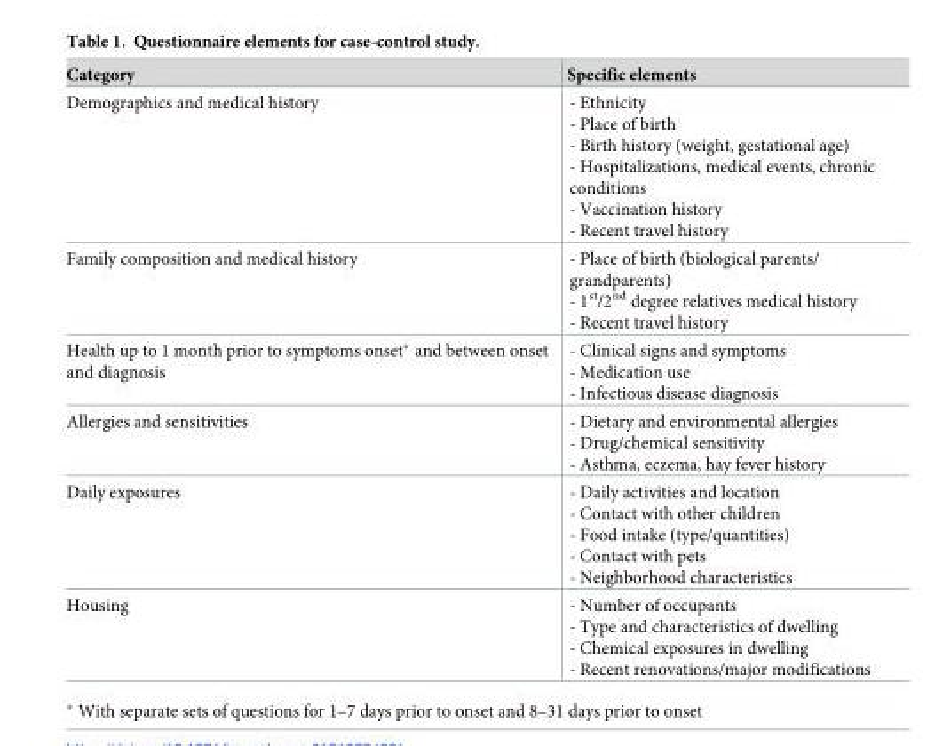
<table><thead><tr><td>Category</td><td>Specific elements</td></tr></thead><tbody><tr><td>Demographics and medical history</td><td>- Ethnicity - Place of birth - Birth history (weight, gestational age) - Hospitalizations, medical events, chronic conditions - Vaccination history - Recent travel history</td></tr><tr><td>Family composition and medical history</td><td>- Place of birth (biological parents/ grandparents) - 1<sup>st</sup>/2<sup>nd</sup> degree relatives medical history - Recent travel history</td></tr><tr><td>Health up to 1 month prior to symptoms onset* and between onset and diagnosis</td><td>- Clinical signs and symptoms - Medication use - Infectious disease diagnosis</td></tr><tr><td>Allergies and sensitivities</td><td>- Dietary and environmental allergies - Drug/chemical sensitivity - Asthma, eczema, hay fever history</td></tr><tr><td>Daily exposures</td><td>- Daily activities and location - Contact with other children - Food intake (type/quantities) - Contact with pets - Neighborhood characteristics</td></tr><tr><td>Housing</td><td>- Number of occupants - Type and characteristics of dwelling - Chemical exposures in dwelling - Recent renovations/major modifications</td></tr></tbody></table>